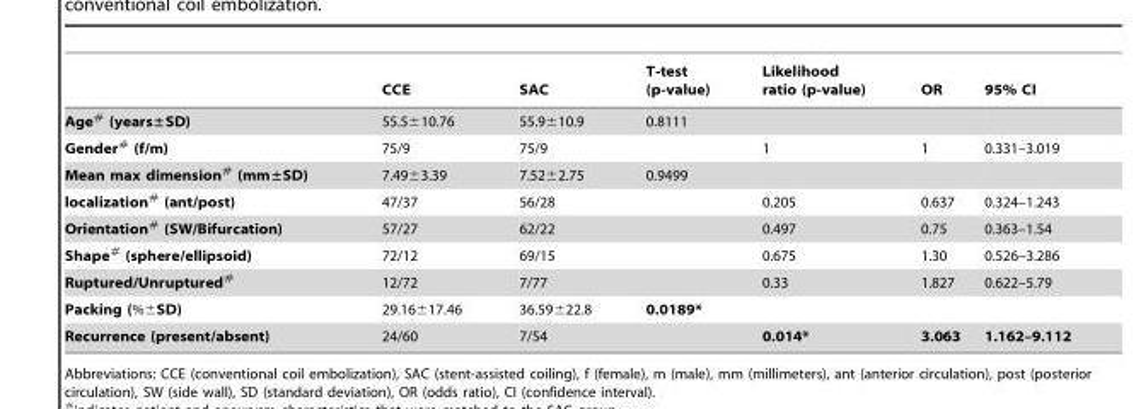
<table><thead><tr><td></td><td>CCE</td><td>SAC</td><td>T-test (p-value)</td><td>Likelihood ratio (p-value)</td><td>OR</td><td>95% CI</td></tr></thead><tbody><tr><td>Age# (years±SD)</td><td>55.5±10.76</td><td>55.9±10.9</td><td>0.8111</td><td></td><td></td><td></td></tr><tr><td>Gender# (f/m)</td><td>75/9</td><td>75/9</td><td></td><td>1</td><td>1</td><td>0.331–3.019</td></tr><tr><td>Mean max dimension# (mm±SD)</td><td>7.49±3.39</td><td>7.52±2.75</td><td>0.9499</td><td></td><td></td><td></td></tr><tr><td>localization# (ant/post)</td><td>47/37</td><td>56/28</td><td></td><td>0.205</td><td>0.637</td><td>0.324–1.243</td></tr><tr><td>Orientation# (SW/Bifurcation)</td><td>57/27</td><td>62/22</td><td></td><td>0.497</td><td>0.75</td><td>0.363–1.54</td></tr><tr><td>Shape# (sphere/ellipsoid)</td><td>72/12</td><td>69/15</td><td></td><td>0.675</td><td>1.30</td><td>0.526–3.286</td></tr><tr><td>Ruptured/Unruptured#</td><td>12/72</td><td>7/77</td><td></td><td>0.33</td><td>1.827</td><td>0.622–5.79</td></tr><tr><td>Packing (%±SD)</td><td>29.16±17.46</td><td>36.59±22.8</td><td>0.0189*</td><td></td><td></td><td></td></tr><tr><td>Recurrence (present/absent)</td><td>24/60</td><td>7/54</td><td></td><td>0.014*</td><td>3.063</td><td>1.162–9.112</td></tr></tbody></table>